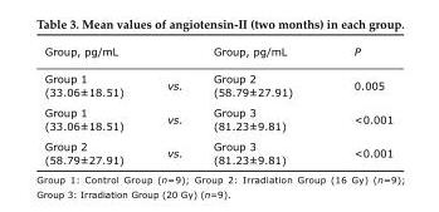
<table><thead><tr><td>Group, pg/mL</td><td></td><td>Group, pg/mL</td><td>P</td></tr></thead><tbody><tr><td>Group 1 (33.06±18.51)</td><td>vs.</td><td>Group 2 (58.79±27.91)</td><td>0.005</td></tr><tr><td>Group 1 (33.06±18.51)</td><td>vs.</td><td>Group 3 (81.23±9.81)</td><td>&lt;0.001</td></tr><tr><td>Group 2 (58.79±27.91)</td><td>vs.</td><td>Group 3 (81.23±9.81)</td><td>&lt;0.001</td></tr></tbody></table>